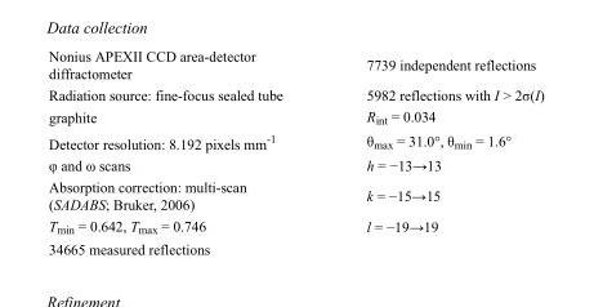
<table><tbody><tr><td>Nonius APEXII CCD area-detector diffractometer</td><td>7739 independent reflections</td></tr><tr><td>Radiation source: fine-focus sealed tube</td><td>5982 reflections with I &gt; 2σ(I)</td></tr><tr><td>graphite</td><td>R<sub>int</sub> = 0.034</td></tr><tr><td>Detector resolution: 8.192 pixels mm<sup>-1</sup></td><td>θ<sub>max</sub> = 31.0°, θ<sub>min</sub> = 1.6°</td></tr><tr><td>φ and ω scans</td><td>h = −13→13</td></tr><tr><td>Absorption correction: multi-scan (SADABS; Bruker, 2006)</td><td>k = −15→15</td></tr><tr><td>T<sub>min</sub> = 0.642, T<sub>max</sub> = 0.746</td><td>l = −19→19</td></tr><tr><td>34665 measured reflections</td><td></td></tr></tbody></table>